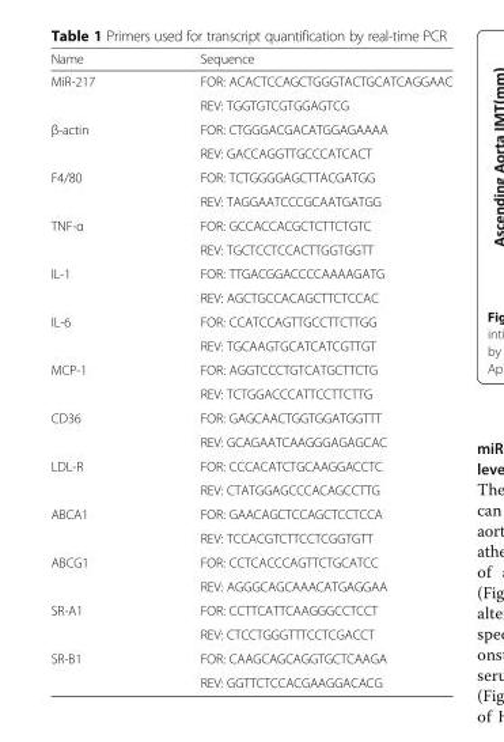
<table><thead><tr><td>Name</td><td>Sequence</td></tr></thead><tbody><tr><td rowspan="2">MiR-217</td><td>FOR: ACACTCCAGCTGGGTACTGCATCAGGAAC</td></tr><tr><td>REV: TGGTGTCGTGGAGTCG</td></tr><tr><td rowspan="2">β-actin</td><td>FOR: CTGGGACGACATGGAGAAAA</td></tr><tr><td>REV: GACCAGGTTGCCCATCACT</td></tr><tr><td rowspan="2">F4/80</td><td>FOR: TCTGGGGAGCTTACGATGG</td></tr><tr><td>REV: TAGGAATCCCGCAATGATGG</td></tr><tr><td rowspan="2">TNF-α</td><td>FOR: GCCACCACGCTCTTCTGTC</td></tr><tr><td>REV: TGCTCCTCCACTTGGTGGTT</td></tr><tr><td rowspan="2">IL-1</td><td>FOR: TTGACGGACCCCAAAAGATG</td></tr><tr><td>REV: AGCTGCCACAGCTTCTCCAC</td></tr><tr><td rowspan="2">IL-6</td><td>FOR: CCATCCAGTTGCCTTCTTGG</td></tr><tr><td>REV: TGCAAGTGCATCATCGTTGT</td></tr><tr><td rowspan="2">MCP-1</td><td>FOR: AGGTCCCTGTCATGCTTCTG</td></tr><tr><td>REV: TCTGGACCCATTCCTTCTTG</td></tr><tr><td rowspan="2">CD36</td><td>FOR: GAGCAACTGGTGGATGGTTT</td></tr><tr><td>REV: GCAGAATCAAGGGAGAGCAC</td></tr><tr><td rowspan="2">LDL-R</td><td>FOR: CCCACATCTGCAAGGACCTC</td></tr><tr><td>REV: CTATGGAGCCCACAGCCTTG</td></tr><tr><td rowspan="2">ABCA1</td><td>FOR: GAACAGCTCCAGCTCCTCCA</td></tr><tr><td>REV: TCCACGTCTTCCTCGGTGTT</td></tr><tr><td rowspan="2">ABCG1</td><td>FOR: CCTCACCCAGTTCTGCATCC</td></tr><tr><td>REV: AGGGCAGCAAACATGAGGAA</td></tr><tr><td rowspan="2">SR-A1</td><td>FOR: CCTTCATTCAAGGGCCTCCT</td></tr><tr><td>REV: CTCCTGGGTTTCCTCGACCT</td></tr><tr><td rowspan="2">SR-B1</td><td>FOR: CAAGCAGCAGGTGCTCAAGA</td></tr><tr><td>REV: GGTTCTCCACGAAGGACACG</td></tr></tbody></table>